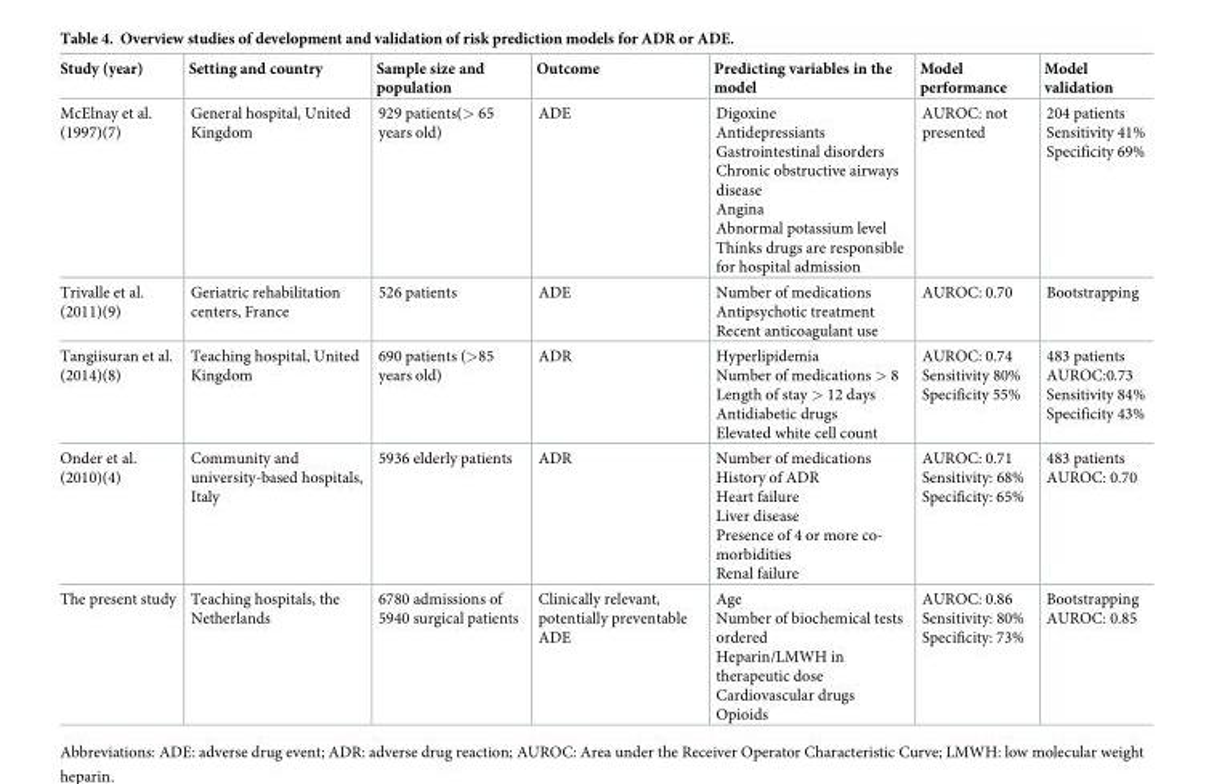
<table><thead><tr><td>Study (year)</td><td>Setting and country</td><td>Sample size and population</td><td>Outcome</td><td>Predicting variables in the model</td><td>Model performance</td><td>Model validation</td></tr></thead><tbody><tr><td>McElnay et al. (1997)(7)</td><td>General hospital, United Kingdom</td><td>929 patients(&gt; 65 years old)</td><td>ADE</td><td>Digoxine Antidepressiants Gastrointestinal disorders Chronic obstructive airways disease Angina Abnormal potassium level Thinks drugs are responsible for hospital admission</td><td>AUROC: not presented</td><td>204 patients Sensitivity 41% Specificity 69%</td></tr><tr><td>Trivalle et al. (2011)(9)</td><td>Geriatric rehabilitation centers, France</td><td>526 patients</td><td>ADE</td><td>Number of medications Antipsychotic treatment Recent anticoagulant use</td><td>AUROC: 0.70</td><td>Bootstrapping</td></tr><tr><td>Tangiisuran et al. (2014)(8)</td><td>Teaching hospital, United Kingdom</td><td>690 patients (&gt;85 years old)</td><td>ADR</td><td>Hyperlipidemia Number of medications &gt; 8 Length of stay &gt; 12 days Antidiabetic drugs Elevated white cell count</td><td>AUROC: 0.74 Sensitivity 80% Specificity 55%</td><td>483 patients AUROC:0.73 Sensitivity 84% Specificity 43%</td></tr><tr><td>Onder et al. (2010)(4)</td><td>Community and university-based hospitals, Italy</td><td>5936 elderly patients</td><td>ADR</td><td>Number of medications History of ADR Heart failure Liver disease Presence of 4 or more co- morbidities Renal failure</td><td>AUROC: 0.71 Sensitivity: 68% Specificity: 65%</td><td>483 patients AUROC: 0.70</td></tr><tr><td>The present study</td><td>Teaching hospitals, the Netherlands</td><td>6780 admissions of 5940 surgical patients</td><td>Clinically relevant, potentially preventable ADE</td><td>Age Number of biochemical tests ordered Heparin/LMWH in therapeutic dose Cardiovascular drugs Opioids</td><td>AUROC: 0.86 Sensitivity: 80% Specificity: 73%</td><td>Bootstrapping AUROC: 0.85</td></tr></tbody></table>